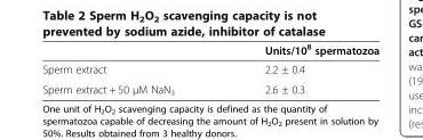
<table><thead><tr><td></td><td>Units/10<sup>8</sup> spermatozoa</td></tr></thead><tbody><tr><td>Sperm extract</td><td>2.2 ± 0.4</td></tr><tr><td>Sperm extract + 50 μM NaN<sub>3</sub></td><td>2.6 ± 0.3</td></tr></tbody></table>